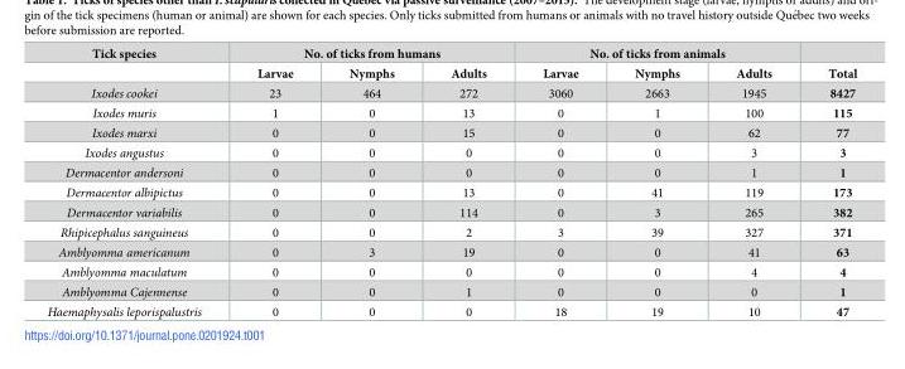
<table><thead><tr><td rowspan="2">Tick species</td><td colspan="3">No. of ticks from humans</td><td colspan="3">No. of ticks from animals</td><td rowspan="2">Total</td></tr><tr><td>Larvae</td><td>Nymphs</td><td>Adults</td><td>Larvae</td><td>Nymphs</td><td>Adults</td></tr></thead><tbody><tr><td>Ixodes cookei</td><td>23</td><td>464</td><td>272</td><td>3060</td><td>2663</td><td>1945</td><td>8427</td></tr><tr><td>Ixodes muris</td><td>1</td><td>0</td><td>13</td><td>0</td><td>1</td><td>100</td><td>115</td></tr><tr><td>Ixodes marxi</td><td>0</td><td>0</td><td>15</td><td>0</td><td>0</td><td>62</td><td>77</td></tr><tr><td>Ixodes angustus</td><td>0</td><td>0</td><td>0</td><td>0</td><td>0</td><td>3</td><td>3</td></tr><tr><td>Dermacentor andersoni</td><td>0</td><td>0</td><td>0</td><td>0</td><td>0</td><td>1</td><td>1</td></tr><tr><td>Dermacentor albipictus</td><td>0</td><td>0</td><td>13</td><td>0</td><td>41</td><td>119</td><td>173</td></tr><tr><td>Dermacentor variabilis</td><td>0</td><td>0</td><td>114</td><td>0</td><td>3</td><td>265</td><td>382</td></tr><tr><td>Rhipicephalus sanguineus</td><td>0</td><td>0</td><td>2</td><td>3</td><td>39</td><td>327</td><td>371</td></tr><tr><td>Amblyomma americanum</td><td>0</td><td>3</td><td>19</td><td>0</td><td>0</td><td>41</td><td>63</td></tr><tr><td>Amblyomma maculatum</td><td>0</td><td>0</td><td>0</td><td>0</td><td>0</td><td>4</td><td>4</td></tr><tr><td>Amblyomma Cajennense</td><td>0</td><td>0</td><td>1</td><td>0</td><td>0</td><td>0</td><td>1</td></tr><tr><td>Haemaphysalis leporispalustris</td><td>0</td><td>0</td><td>0</td><td>18</td><td>19</td><td>10</td><td>47</td></tr></tbody></table>